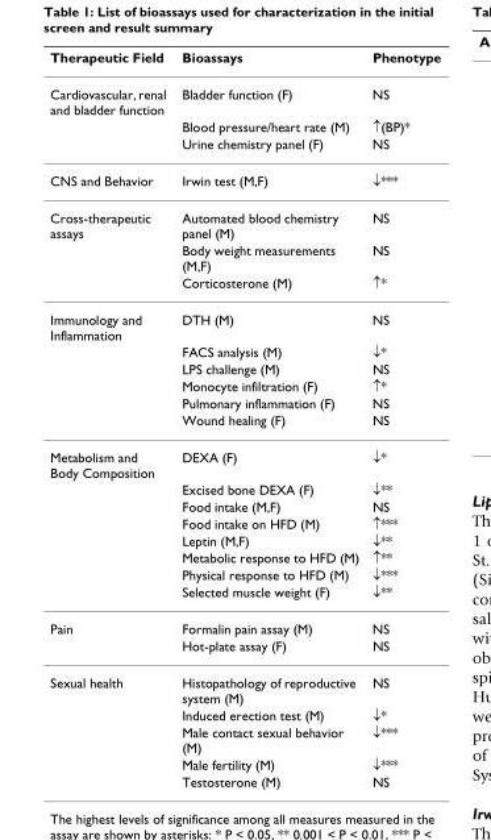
<table><thead><tr><td>Therapeutic Field</td><td>Bioassays</td><td>Phenotype</td></tr></thead><tbody><tr><td rowspan="3">Cardiovascular, renal and bladder function</td><td>Bladder function (F)</td><td>NS</td></tr><tr><td>Blood pressure/heart rate (M)</td><td>↑(BP)*</td></tr><tr><td>Urine chemistry panel (F)</td><td>NS</td></tr><tr><td>CNS and Behavior</td><td>Irwin test (M,F)</td><td>↓***</td></tr><tr><td rowspan="3">Cross-therapeutic assays</td><td>Automated blood chemistry panel (M)</td><td>NS</td></tr><tr><td>Body weight measurements (M,F)</td><td>NS</td></tr><tr><td>Corticosterone (M)</td><td>↑*</td></tr><tr><td rowspan="6">Immunology and Inflammation</td><td>DTH (M)</td><td>NS</td></tr><tr><td>FACS analysis (M)</td><td>↓*</td></tr><tr><td>LPS challenge (M)</td><td>NS</td></tr><tr><td>Monocyte infiltration (F)</td><td>↑*</td></tr><tr><td>Pulmonary inflammation (F)</td><td>NS</td></tr><tr><td>Wound healing (F)</td><td>NS</td></tr><tr><td rowspan="8">Metabolism and Body Composition</td><td>DEXA (F)</td><td>↓*</td></tr><tr><td>Excised bone DEXA (F)</td><td>↓**</td></tr><tr><td>Food intake (M,F)</td><td>NS</td></tr><tr><td>Food intake on HFD (M)</td><td>↑***</td></tr><tr><td>Leptin (M,F)</td><td>↓**</td></tr><tr><td>Metabolic response to HFD (M)</td><td>↑**</td></tr><tr><td>Physical response to HFD (M)</td><td>↓***</td></tr><tr><td>Selected muscle weight (F)</td><td>↓**</td></tr><tr><td rowspan="2">Pain</td><td>Formalin pain assay (M)</td><td>NS</td></tr><tr><td>Hot-plate assay (F)</td><td>NS</td></tr><tr><td rowspan="5">Sexual health</td><td>Histopathology of reproductive system (M)</td><td>NS</td></tr><tr><td>Induced erection test (M)</td><td>↓*</td></tr><tr><td>Male contact sexual behavior (M)</td><td>↓***</td></tr><tr><td>Male fertility (M)</td><td>↓***</td></tr><tr><td>Testosterone (M)</td><td>NS</td></tr></tbody></table>